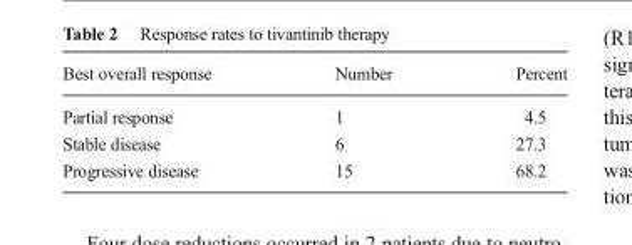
<table><thead><tr><td>Best overall response</td><td>Number</td><td>Percent</td></tr></thead><tbody><tr><td>Partial response</td><td>1</td><td>4.5</td></tr><tr><td>Stable disease</td><td>6</td><td>27.3</td></tr><tr><td>Progressive disease</td><td>15</td><td>68.2</td></tr></tbody></table>